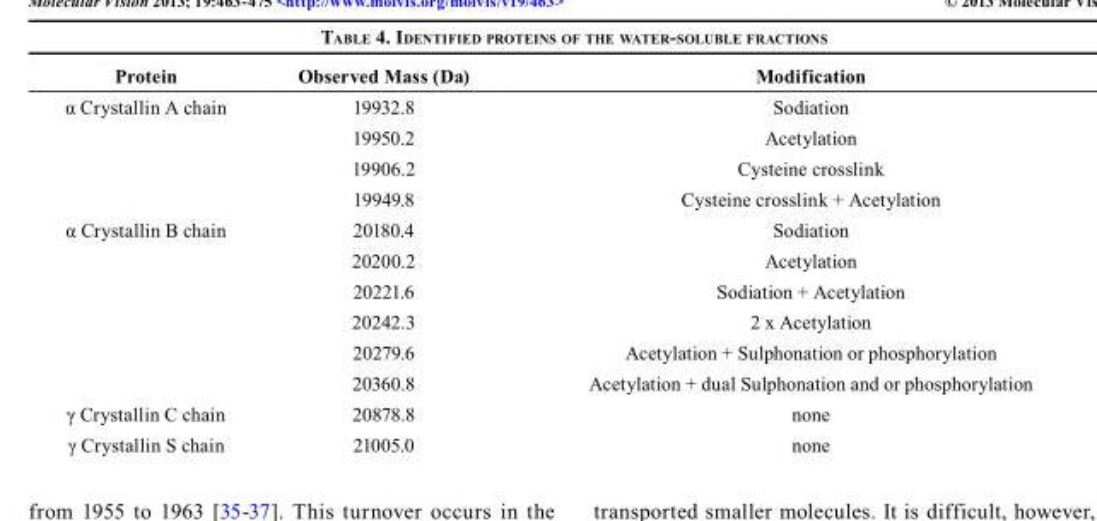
<table><thead><tr><td>Protein</td><td>Observed Mass (Da)</td><td>Modification</td></tr></thead><tbody><tr><td rowspan="4">α Crystallin A chain</td><td>19932.8</td><td>Sodiation</td></tr><tr><td>19950.2</td><td>Acetylation</td></tr><tr><td>19906.2</td><td>Cysteine crosslink</td></tr><tr><td>19949.8</td><td>Cysteine crosslink + Acetylation</td></tr><tr><td rowspan="6">α Crystallin B chain</td><td>20180.4</td><td>Sodiation</td></tr><tr><td>20200.2</td><td>Acetylation</td></tr><tr><td>20221.6</td><td>Sodiation + Acetylation</td></tr><tr><td>20242.3</td><td>2 x Acetylation</td></tr><tr><td>20279.6</td><td>Acetylation + Sulphonation or phosphorylation</td></tr><tr><td>20360.8</td><td>Acetylation + dual Sulphonation and or phosphorylation</td></tr><tr><td>γ Crystallin C chain</td><td>20878.8</td><td>none</td></tr><tr><td>γ Crystallin S chain</td><td>21005.0</td><td>none</td></tr></tbody></table>